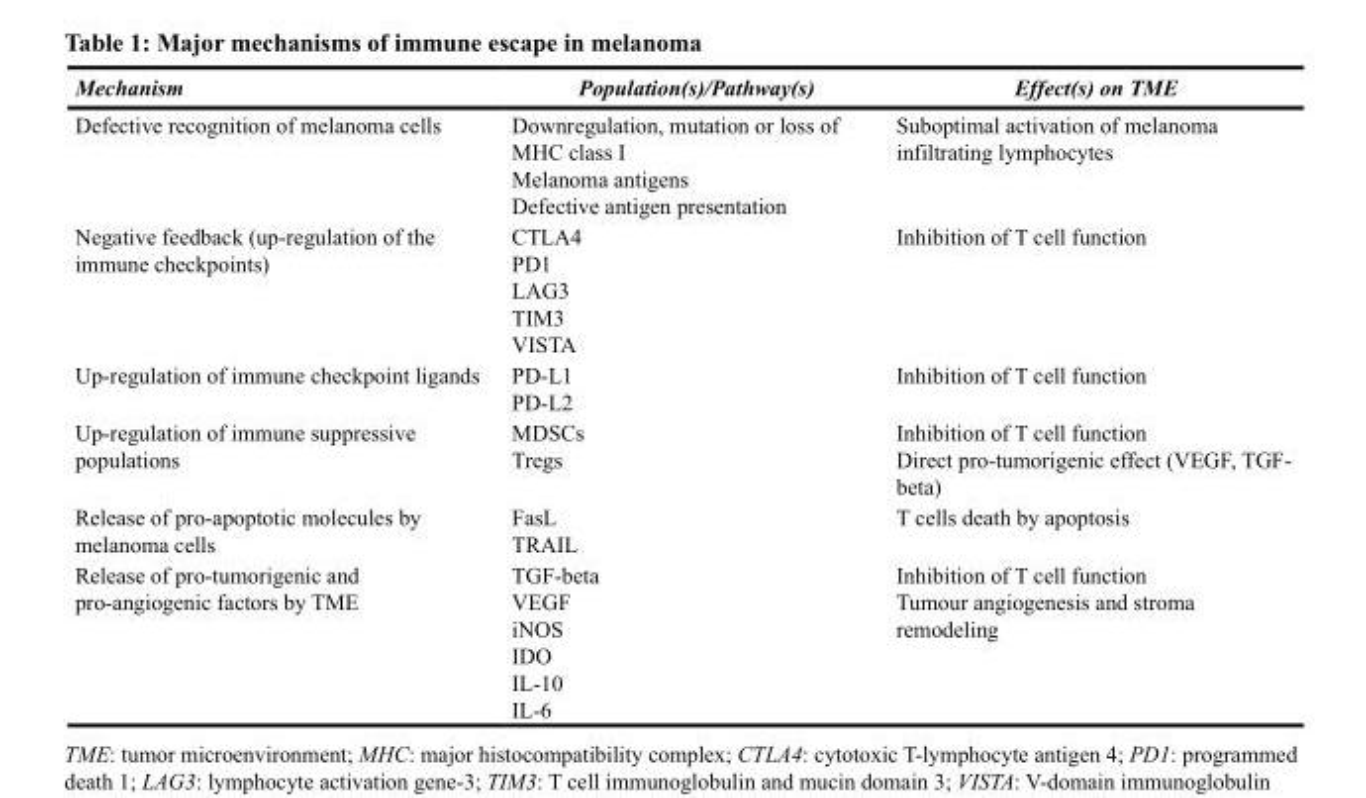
<table><thead><tr><td>Mechanism</td><td>Population(s)/Pathway(s)</td><td>Effect(s) on TME</td></tr></thead><tbody><tr><td>Defective recognition of melanoma cells</td><td>Downregulation, mutation or loss of MHC class I Melanoma antigens Defective antigen presentation</td><td>Suboptimal activation of melanoma infiltrating lymphocytes</td></tr><tr><td>Negative feedback (up-regulation of the immune checkpoints)</td><td>CTLA4 PD1 LAG3 TIM3 VISTA</td><td>Inhibition of T cell function</td></tr><tr><td>Up-regulation of immune checkpoint ligands</td><td>PD-L1 PD-L2</td><td>Inhibition of T cell function</td></tr><tr><td>Up-regulation of immune suppressive populations</td><td>MDSCs Tregs</td><td>Inhibition of T cell function Direct pro-tumorigenic effect (VEGF, TGF- beta)</td></tr><tr><td>Release of pro-apoptotic molecules by melanoma cells</td><td>FasL TRAIL</td><td>T cells death by apoptosis</td></tr><tr><td>Release of pro-tumorigenic and pro-angiogenic factors by TME</td><td>TGF-beta VEGF iNOS IDO IL-10 IL-6</td><td>Inhibition of T cell function Tumour angiogenesis and stroma remodeling</td></tr></tbody></table>